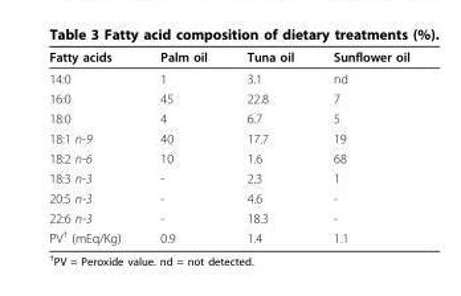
<table><thead><tr><td>Fatty acids</td><td>Palm oil</td><td>Tuna oil</td><td>Sunflower oil</td></tr></thead><tbody><tr><td>14:0</td><td>1</td><td>3.1</td><td>nd</td></tr><tr><td>16:0</td><td>45</td><td>22.8</td><td>7</td></tr><tr><td>18:0</td><td>4</td><td>6.7</td><td>5</td></tr><tr><td>18:1 n-9</td><td>40</td><td>17.7</td><td>19</td></tr><tr><td>18:2 n-6</td><td>10</td><td>1.6</td><td>68</td></tr><tr><td>18:3 n-3</td><td>-</td><td>2.3</td><td>1</td></tr><tr><td>20:5 n-3</td><td>-</td><td>4.6</td><td>-</td></tr><tr><td>22:6 n-3</td><td>-</td><td>18.3</td><td>-</td></tr><tr><td>PV<sup>†</sup> (mEq/Kg)</td><td>0.9</td><td>1.4</td><td>1.1</td></tr></tbody></table>